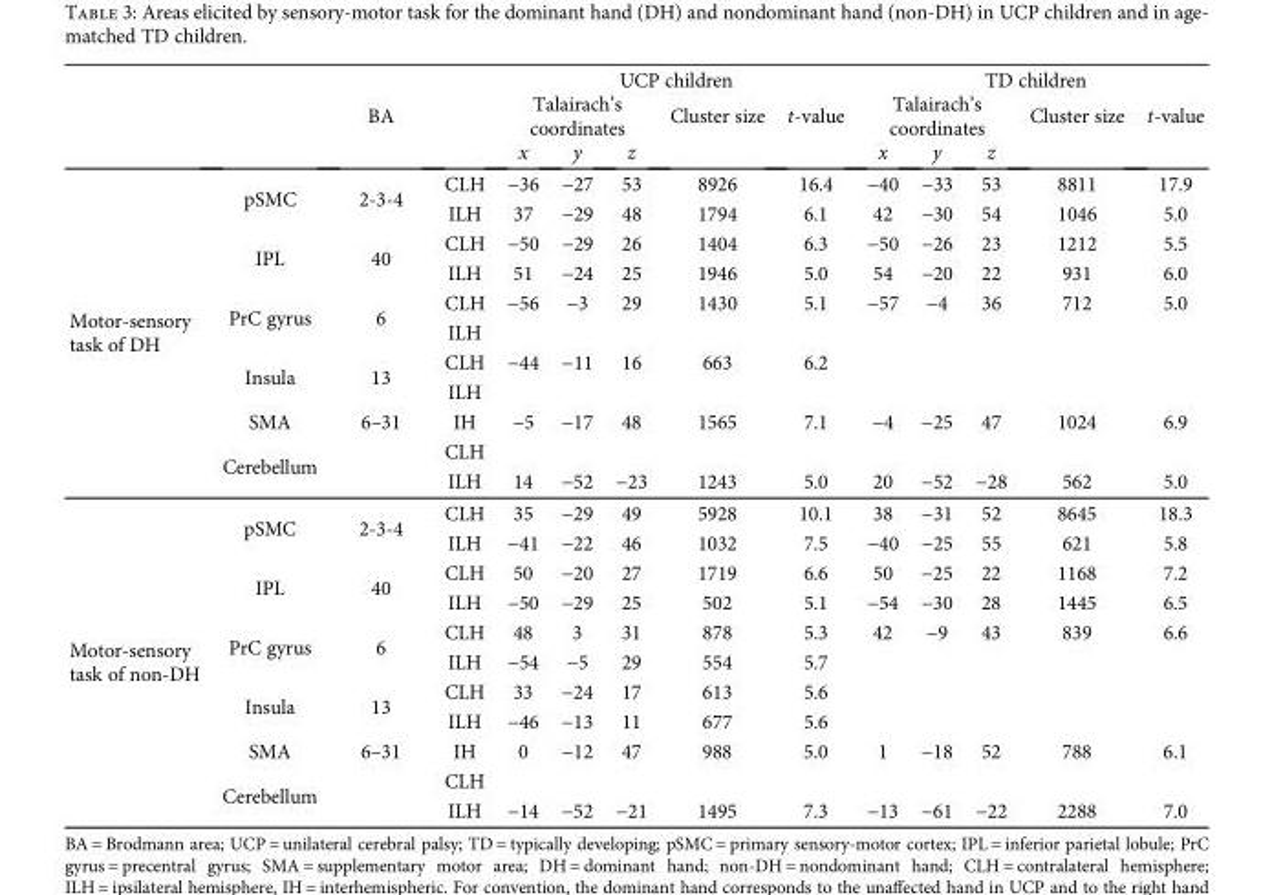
<table><thead><tr><td rowspan="3"></td><td rowspan="3"></td><td rowspan="3">BA</td><td rowspan="3"></td><td colspan="5">UCP children</td><td colspan="5">TD children</td></tr><tr><td colspan="3">Talairach’s coordinates</td><td rowspan="2">Cluster size</td><td rowspan="2">t-value</td><td colspan="3">Talairach’s coordinates</td><td rowspan="2">Cluster size</td><td rowspan="2">t-value</td></tr><tr><td>x</td><td>y</td><td>z</td><td>x</td><td>y</td><td>z</td></tr></thead><tbody><tr><td rowspan="11">Motor-sensory task of DH</td><td rowspan="2">pSMC</td><td rowspan="2">2-3-4</td><td>CLH</td><td>−36</td><td>−27</td><td>53</td><td>8926</td><td>16.4</td><td>−40</td><td>−33</td><td>53</td><td>8811</td><td>17.9</td></tr><tr><td>ILH</td><td>37</td><td>−29</td><td>48</td><td>1794</td><td>6.1</td><td>42</td><td>−30</td><td>54</td><td>1046</td><td>5.0</td></tr><tr><td rowspan="2">IPL</td><td rowspan="2">40</td><td>CLH</td><td>−50</td><td>−29</td><td>26</td><td>1404</td><td>6.3</td><td>−50</td><td>−26</td><td>23</td><td>1212</td><td>5.5</td></tr><tr><td>ILH</td><td>51</td><td>−24</td><td>25</td><td>1946</td><td>5.0</td><td>54</td><td>−20</td><td>22</td><td>931</td><td>6.0</td></tr><tr><td rowspan="2">PrC gyrus</td><td rowspan="2">6</td><td>CLH</td><td>−56</td><td>−3</td><td>29</td><td>1430</td><td>5.1</td><td>−57</td><td>−4</td><td>36</td><td>712</td><td>5.0</td></tr><tr><td>ILH</td><td></td><td></td><td></td><td></td><td></td><td></td><td></td><td></td><td></td><td></td></tr><tr><td rowspan="2">Insula</td><td rowspan="2">13</td><td>CLH</td><td>−44</td><td>−11</td><td>16</td><td>663</td><td>6.2</td><td></td><td></td><td></td><td></td><td></td></tr><tr><td>ILH</td><td></td><td></td><td></td><td></td><td></td><td></td><td></td><td></td><td></td><td></td></tr><tr><td>SMA</td><td>6–31</td><td>IH</td><td>−5</td><td>−17</td><td>48</td><td>1565</td><td>7.1</td><td>−4</td><td>−25</td><td>47</td><td>1024</td><td>6.9</td></tr><tr><td rowspan="2">Cerebellum</td><td rowspan="2"></td><td>CLH</td><td></td><td></td><td></td><td></td><td></td><td></td><td></td><td></td><td></td><td></td></tr><tr><td>ILH</td><td>14</td><td>−52</td><td>−23</td><td>1243</td><td>5.0</td><td>20</td><td>−52</td><td>−28</td><td>562</td><td>5.0</td></tr><tr><td rowspan="11">Motor-sensory task of non-DH</td><td rowspan="2">pSMC</td><td rowspan="2">2-3-4</td><td>CLH</td><td>35</td><td>−29</td><td>49</td><td>5928</td><td>10.1</td><td>38</td><td>−31</td><td>52</td><td>8645</td><td>18.3</td></tr><tr><td>ILH</td><td>−41</td><td>−22</td><td>46</td><td>1032</td><td>7.5</td><td>−40</td><td>−25</td><td>55</td><td>621</td><td>5.8</td></tr><tr><td rowspan="2">IPL</td><td rowspan="2">40</td><td>CLH</td><td>50</td><td>−20</td><td>27</td><td>1719</td><td>6.6</td><td>50</td><td>−25</td><td>22</td><td>1168</td><td>7.2</td></tr><tr><td>ILH</td><td>−50</td><td>−29</td><td>25</td><td>502</td><td>5.1</td><td>−54</td><td>−30</td><td>28</td><td>1445</td><td>6.5</td></tr><tr><td rowspan="2">PrC gyrus</td><td rowspan="2">6</td><td>CLH</td><td>48</td><td>3</td><td>31</td><td>878</td><td>5.3</td><td>42</td><td>−9</td><td>43</td><td>839</td><td>6.6</td></tr><tr><td>ILH</td><td>−54</td><td>−5</td><td>29</td><td>554</td><td>5.7</td><td></td><td></td><td></td><td></td><td></td></tr><tr><td rowspan="2">Insula</td><td rowspan="2">13</td><td>CLH</td><td>33</td><td>−24</td><td>17</td><td>613</td><td>5.6</td><td></td><td></td><td></td><td></td><td></td></tr><tr><td>ILH</td><td>−46</td><td>−13</td><td>11</td><td>677</td><td>5.6</td><td></td><td></td><td></td><td></td><td></td></tr><tr><td>SMA</td><td>6–31</td><td>IH</td><td>0</td><td>−12</td><td>47</td><td>988</td><td>5.0</td><td>1</td><td>−18</td><td>52</td><td>788</td><td>6.1</td></tr><tr><td rowspan="2">Cerebellum</td><td rowspan="2"></td><td>CLH</td><td></td><td></td><td></td><td></td><td></td><td></td><td></td><td></td><td></td><td></td></tr><tr><td>ILH</td><td>−14</td><td>−52</td><td>−21</td><td>1495</td><td>7.3</td><td>−13</td><td>−61</td><td>−22</td><td>2288</td><td>7.0</td></tr></tbody></table>